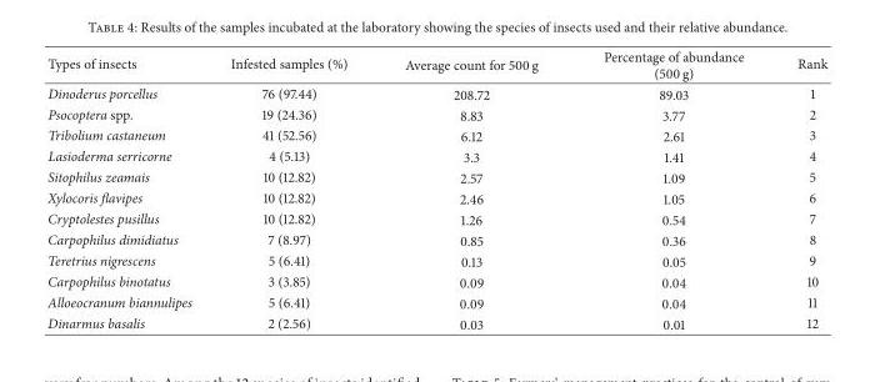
<table><thead><tr><td>Types of insects</td><td>Infested samples (%)</td><td>Average count for 500 g</td><td>Percentage of abundance (500 g)</td><td>Rank</td></tr></thead><tbody><tr><td>Dinoderus porcellus</td><td>76 (97.44)</td><td>208.72</td><td>89.03</td><td>1</td></tr><tr><td>Psocoptera spp.</td><td>19 (24.36)</td><td>8.83</td><td>3.77</td><td>2</td></tr><tr><td>Tribolium castaneum</td><td>41 (52.56)</td><td>6.12</td><td>2.61</td><td>3</td></tr><tr><td>Lasioderma serricorne</td><td>4 (5.13)</td><td>3.3</td><td>1.41</td><td>4</td></tr><tr><td>Sitophilus zeamais</td><td>10 (12.82)</td><td>2.57</td><td>1.09</td><td>5</td></tr><tr><td>Xylocoris flavipes</td><td>10 (12.82)</td><td>2.46</td><td>1.05</td><td>6</td></tr><tr><td>Cryptolestes pusillus</td><td>10 (12.82)</td><td>1.26</td><td>0.54</td><td>7</td></tr><tr><td>Carpophilus dimidiatus</td><td>7 (8.97)</td><td>0.85</td><td>0.36</td><td>8</td></tr><tr><td>Teretrius nigrescens</td><td>5 (6.41)</td><td>0.13</td><td>0.05</td><td>9</td></tr><tr><td>Carpophilus binotatus</td><td>3 (3.85)</td><td>0.09</td><td>0.04</td><td>10</td></tr><tr><td>Alloeocranum biannulipes</td><td>5 (6.41)</td><td>0.09</td><td>0.04</td><td>11</td></tr><tr><td>Dinarmus basalis</td><td>2 (2.56)</td><td>0.03</td><td>0.01</td><td>12</td></tr></tbody></table>